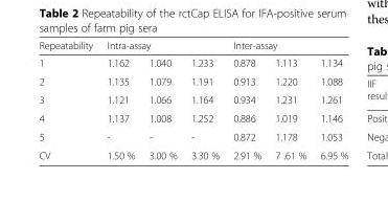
<table><thead><tr><td rowspan="2">Repeatability 1</td><td colspan="3">Intra-assay</td><td colspan="3">Inter-assay</td></tr><tr><td>1.162</td><td>1.040</td><td>1.233</td><td>0.878</td><td>1.113</td><td>1.134</td></tr></thead><tbody><tr><td>2</td><td>1.135</td><td>1.079</td><td>1.191</td><td>0.913</td><td>1.220</td><td>1.088</td></tr><tr><td>3</td><td>1.121</td><td>1.066</td><td>1.164</td><td>0.934</td><td>1.231</td><td>1.261</td></tr><tr><td>4</td><td>1.137</td><td>1.008</td><td>1.252</td><td>0.886</td><td>1.019</td><td>1.146</td></tr><tr><td>5</td><td>-</td><td>-</td><td>-</td><td>0.872</td><td>1.178</td><td>1.053</td></tr><tr><td>CV</td><td>1.50 %</td><td>3.00 %</td><td>3.30 %</td><td>2.91 %</td><td>7 .61 %</td><td>6.95 %</td></tr></tbody></table>